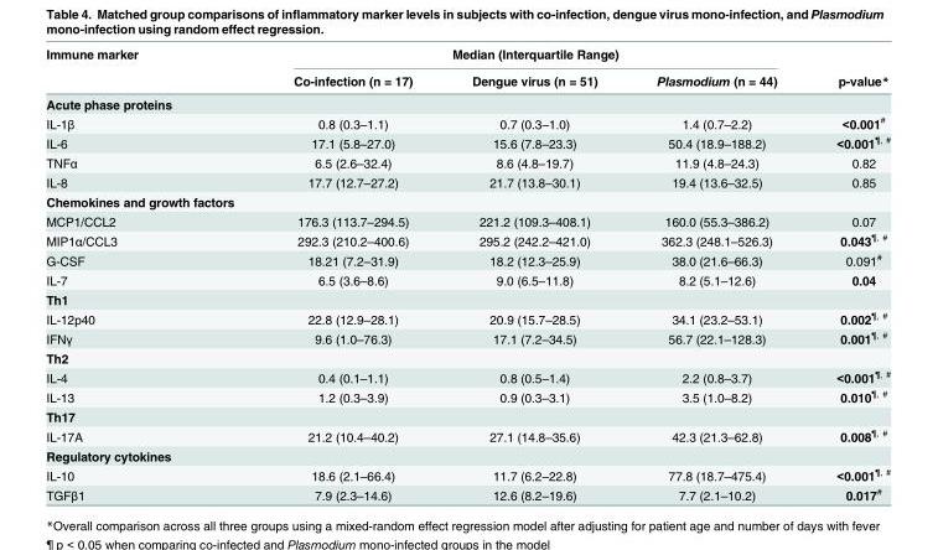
<table><thead><tr><td rowspan="2">Immune marker</td><td colspan="3">Median (Interquartile Range)</td><td rowspan="2">p-value*</td></tr><tr><td>Co-infection (n = 17)</td><td>Dengue virus (n = 51)</td><td>Plasmodium (n = 44)</td></tr></thead><tbody><tr><td colspan="5">Acute phase proteins</td></tr><tr><td>IL-1β</td><td>0.8 (0.3–1.1)</td><td>0.7 (0.3–1.0)</td><td>1.4 (0.7–2.2)</td><td>&lt;0.001<sup>#</sup></td></tr><tr><td>IL-6</td><td>17.1 (5.8–27.0)</td><td>15.6 (7.8–23.3)</td><td>50.4 (18.9–188.2)</td><td>&lt;0.001<sup>¶, #</sup></td></tr><tr><td>TNFα</td><td>6.5 (2.6–32.4)</td><td>8.6 (4.8–19.7)</td><td>11.9 (4.8–24.3)</td><td>0.82</td></tr><tr><td>IL-8</td><td>17.7 (12.7–27.2)</td><td>21.7 (13.8–30.1)</td><td>19.4 (13.6–32.5)</td><td>0.85</td></tr><tr><td colspan="5">Chemokines and growth factors</td></tr><tr><td>MCP1/CCL2</td><td>176.3 (113.7–294.5)</td><td>221.2 (109.3–408.1)</td><td>160.0 (55.3–386.2)</td><td>0.07</td></tr><tr><td>MIP1α/CCL3</td><td>292.3 (210.2–400.6)</td><td>295.2 (242.2–421.0)</td><td>362.3 (248.1–526.3)</td><td>0.043<sup>¶, #</sup></td></tr><tr><td>G-CSF</td><td>18.21 (7.2–31.9)</td><td>18.2 (12.3–25.9)</td><td>38.0 (21.6–66.3)</td><td>0.091<sup>#</sup></td></tr><tr><td>IL-7</td><td>6.5 (3.6–8.6)</td><td>9.0 (6.5–11.8)</td><td>8.2 (5.1–12.6)</td><td>0.04</td></tr><tr><td colspan="5">Th1</td></tr><tr><td>IL-12p40</td><td>22.8 (12.9–28.1)</td><td>20.9 (15.7–28.5)</td><td>34.1 (23.2–53.1)</td><td>0.002<sup>¶, #</sup></td></tr><tr><td>IFNγ</td><td>9.6 (1.0–76.3)</td><td>17.1 (7.2–34.5)</td><td>56.7 (22.1–128.3)</td><td>0.001<sup>¶, #</sup></td></tr><tr><td colspan="5">Th2</td></tr><tr><td>IL-4</td><td>0.4 (0.1–1.1)</td><td>0.8 (0.5–1.4)</td><td>2.2 (0.8–3.7)</td><td>&lt;0.001<sup>¶, #</sup></td></tr><tr><td>IL-13</td><td>1.2 (0.3–3.9)</td><td>0.9 (0.3–3.1)</td><td>3.5 (1.0–8.2)</td><td>0.010<sup>¶, #</sup></td></tr><tr><td colspan="5">Th17</td></tr><tr><td>IL-17A</td><td>21.2 (10.4–40.2)</td><td>27.1 (14.8–35.6)</td><td>42.3 (21.3–62.8)</td><td>0.008<sup>¶, #</sup></td></tr><tr><td colspan="5">Regulatory cytokines</td></tr><tr><td>IL-10</td><td>18.6 (2.1–66.4)</td><td>11.7 (6.2–22.8)</td><td>77.8 (18.7–475.4)</td><td>&lt;0.001<sup>¶, #</sup></td></tr><tr><td>TGFβ1</td><td>7.9 (2.3–14.6)</td><td>12.6 (8.2–19.6)</td><td>7.7 (2.1–10.2)</td><td>0.017<sup>#</sup></td></tr></tbody></table>